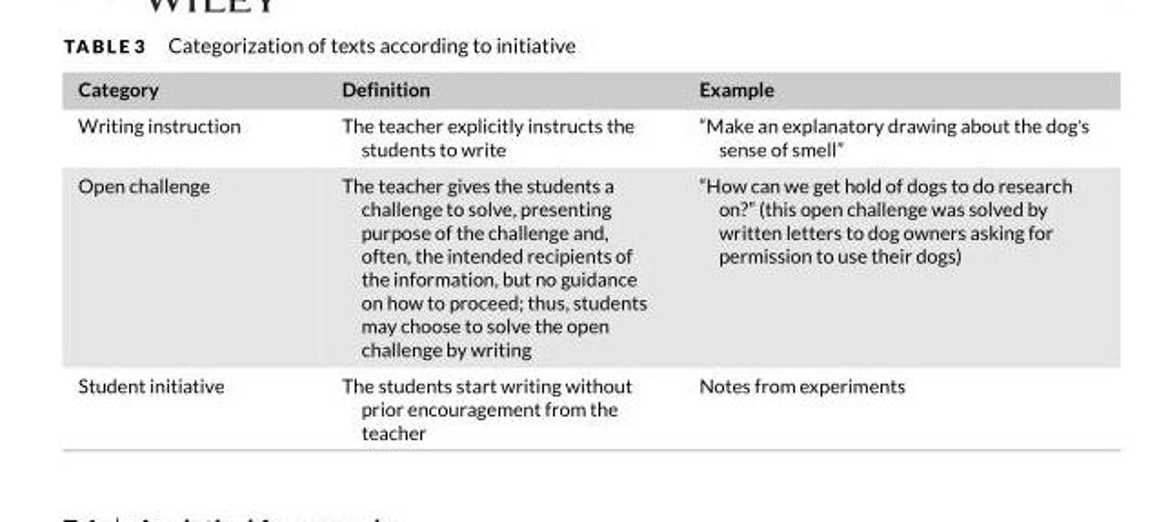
<table><thead><tr><td>Category</td><td>Definition</td><td>Example</td></tr></thead><tbody><tr><td>Writing instruction</td><td>The teacher explicitly instructs the students to write</td><td>“Make an explanatory drawing about the dog&#x27;s sense of smell”</td></tr><tr><td>Open challenge</td><td>The teacher gives the students a challenge to solve, presenting purpose of the challenge and, often, the intended recipients of the information, but no guidance on how to proceed; thus, students may choose to solve the open challenge by writing</td><td>“How can we get hold of dogs to do research on?” (this open challenge was solved by written letters to dog owners asking for permission to use their dogs)</td></tr><tr><td>Student initiative</td><td>The students start writing without prior encouragement from the teacher</td><td>Notes from experiments</td></tr></tbody></table>